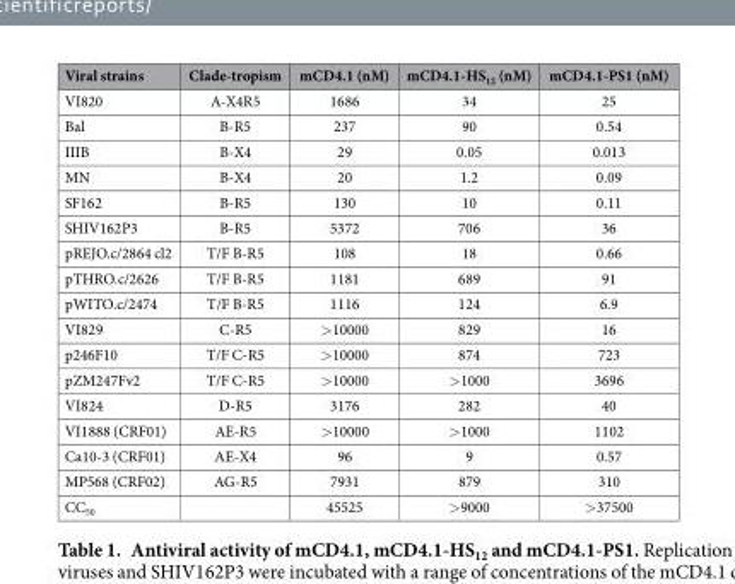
<table><thead><tr><td>Viral strains</td><td>Clade-tropism</td><td>mCD4.1 (nM)</td><td>mCD4.1-HS<sub>12</sub> (nM)</td><td>mCD4.1-PS1 (nM)</td></tr></thead><tbody><tr><td>VI820</td><td>A-X4R5</td><td>1686</td><td>34</td><td>25</td></tr><tr><td>Bal</td><td>B-R5</td><td>237</td><td>90</td><td>0.54</td></tr><tr><td>IIIB</td><td>B-X4</td><td>29</td><td>0.05</td><td>0.013</td></tr><tr><td>MN</td><td>B-X4</td><td>20</td><td>1.2</td><td>0.09</td></tr><tr><td>SF162</td><td>B-R5</td><td>130</td><td>10</td><td>0.11</td></tr><tr><td>SHIV162P3</td><td>B-R5</td><td>5372</td><td>706</td><td>36</td></tr><tr><td>pREJO.c/2864 cl2</td><td>T/F B-R5</td><td>108</td><td>18</td><td>0.66</td></tr><tr><td>pTHRO.c/2626</td><td>T/F B-R5</td><td>1181</td><td>689</td><td>91</td></tr><tr><td>pWITO.c/2474</td><td>T/F B-R5</td><td>1116</td><td>124</td><td>6.9</td></tr><tr><td>VI829</td><td>C-R5</td><td>&gt; 10000</td><td>829</td><td>16</td></tr><tr><td>p246F10</td><td>T/F C-R5</td><td>&gt; 10000</td><td>874</td><td>723</td></tr><tr><td>pZM247Fv2</td><td>T/F C-R5</td><td>&gt; 10000</td><td>&gt; 1000</td><td>3696</td></tr><tr><td>VI824</td><td>D-R5</td><td>3176</td><td>282</td><td>40</td></tr><tr><td>VI1888 (CRF01)</td><td>AE-R5</td><td>&gt; 10000</td><td>&gt; 1000</td><td>1102</td></tr><tr><td>Ca10-3 (CRF01)</td><td>AE-X4</td><td>96</td><td>9</td><td>0.57</td></tr><tr><td>MP568 (CRF02)</td><td>AG-R5</td><td>7931</td><td>879</td><td>310</td></tr><tr><td>CC<sub>50</sub></td><td></td><td>45525</td><td>&gt; 9000</td><td>&gt; 37500</td></tr></tbody></table>